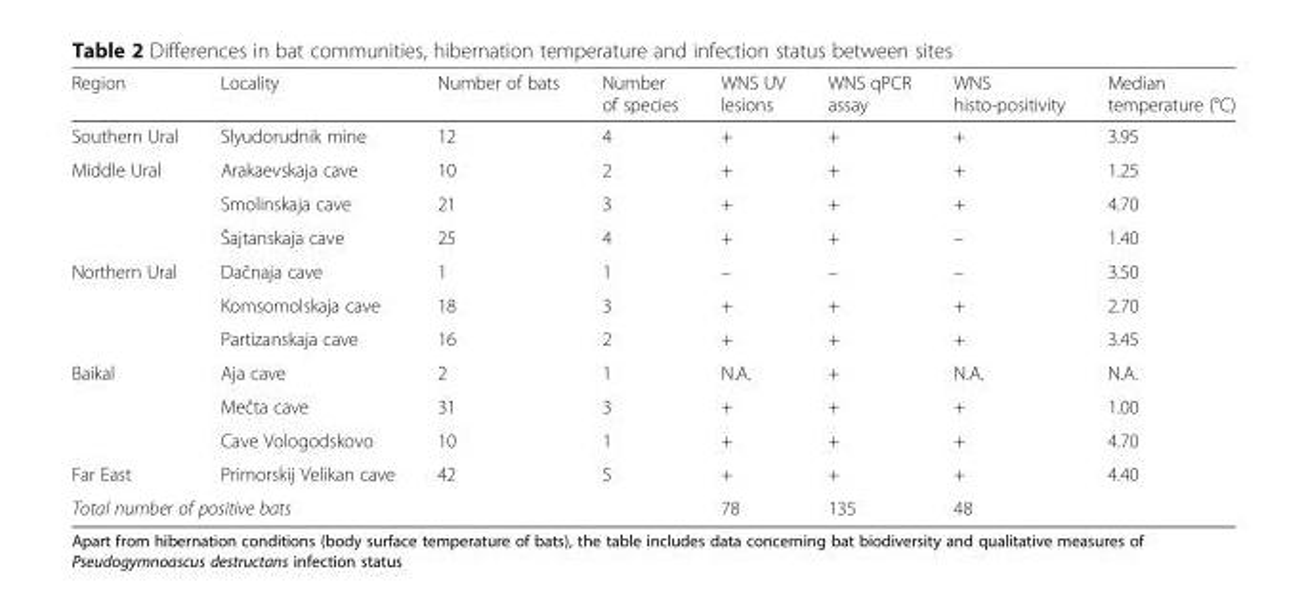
<table><thead><tr><td>Region</td><td>Locality</td><td>Number of bats</td><td>Number of species</td><td>WNS UV lesions</td><td>WNS qPCR assay</td><td>WNS histo-positivity</td><td>Median temperature (°C)</td></tr></thead><tbody><tr><td>Southern Ural</td><td>Slyudorudnik mine</td><td>12</td><td>4</td><td>+</td><td>+</td><td>+</td><td>3.95</td></tr><tr><td rowspan="3">Middle Ural</td><td>Arakaevskaja cave</td><td>10</td><td>2</td><td>+</td><td>+</td><td>+</td><td>1.25</td></tr><tr><td>Smolinskaja cave</td><td>21</td><td>3</td><td>+</td><td>+</td><td>+</td><td>4.70</td></tr><tr><td>Šajtanskaja cave</td><td>25</td><td>4</td><td>+</td><td>+</td><td>–</td><td>1.40</td></tr><tr><td rowspan="3">Northern Ural</td><td>Dačnaja cave</td><td>1</td><td>1</td><td>–</td><td>–</td><td>–</td><td>3.50</td></tr><tr><td>Komsomolskaja cave</td><td>18</td><td>3</td><td>+</td><td>+</td><td>+</td><td>2.70</td></tr><tr><td>Partizanskaja cave</td><td>16</td><td>2</td><td>+</td><td>+</td><td>+</td><td>3.45</td></tr><tr><td rowspan="3">Baikal</td><td>Aja cave</td><td>2</td><td>1</td><td>N.A.</td><td>+</td><td>N.A.</td><td>N.A.</td></tr><tr><td>Mečta cave</td><td>31</td><td>3</td><td>+</td><td>+</td><td>+</td><td>1.00</td></tr><tr><td>Cave Vologodskovo</td><td>10</td><td>1</td><td>+</td><td>+</td><td>+</td><td>4.70</td></tr><tr><td>Far East</td><td>Primorskij Velikan cave</td><td>42</td><td>5</td><td>+</td><td>+</td><td>+</td><td>4.40</td></tr><tr><td colspan="2">Total number of positive bats</td><td></td><td></td><td>78</td><td>135</td><td>48</td><td></td></tr></tbody></table>